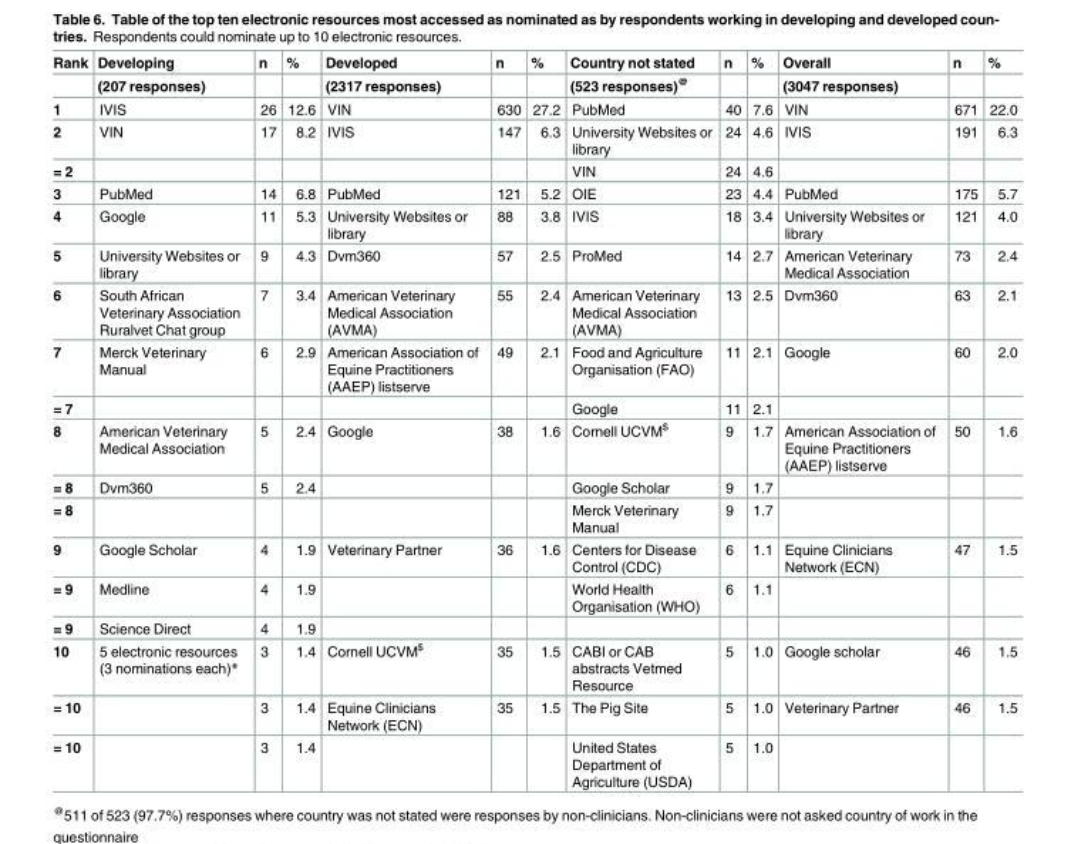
<table><thead><tr><td rowspan="2">Rank</td><td rowspan="2">Developing (207 responses)</td><td rowspan="2">n</td><td rowspan="2">%</td><td rowspan="2">Developed (2317 responses)</td><td rowspan="2">n</td><td rowspan="2">%</td><td rowspan="2">Country not stated (523 responses)<sup>@</sup></td><td rowspan="2">n</td><td rowspan="2">%</td><td rowspan="2">Overall (3047 responses)</td><td rowspan="2">n</td><td rowspan="2">%</td></tr><tr></tr></thead><tbody><tr><td>1</td><td>IVIS</td><td>26</td><td>12.6</td><td>VIN</td><td>630</td><td>27.2</td><td>PubMed</td><td>40</td><td>7.6</td><td>VIN</td><td>671</td><td>22.0</td></tr><tr><td>2</td><td>VIN</td><td>17</td><td>8.2</td><td>IVIS</td><td>147</td><td>6.3</td><td>University Websites or library</td><td>24</td><td>4.6</td><td>IVIS</td><td>191</td><td>6.3</td></tr><tr><td>= 2</td><td></td><td></td><td></td><td></td><td></td><td></td><td>VIN</td><td>24</td><td>4.6</td><td></td><td></td><td></td></tr><tr><td>3</td><td>PubMed</td><td>14</td><td>6.8</td><td>PubMed</td><td>121</td><td>5.2</td><td>OIE</td><td>23</td><td>4.4</td><td>PubMed</td><td>175</td><td>5.7</td></tr><tr><td>4</td><td>Google</td><td>11</td><td>5.3</td><td>University Websites or library</td><td>88</td><td>3.8</td><td>IVIS</td><td>18</td><td>3.4</td><td>University Websites or library</td><td>121</td><td>4.0</td></tr><tr><td>5</td><td>University Websites or library</td><td>9</td><td>4.3</td><td>Dvm360</td><td>57</td><td>2.5</td><td>ProMed</td><td>14</td><td>2.7</td><td>American Veterinary Medical Association</td><td>73</td><td>2.4</td></tr><tr><td>6</td><td>South African Veterinary Association Ruralvet Chat group</td><td>7</td><td>3.4</td><td>American Veterinary Medical Association (AVMA)</td><td>55</td><td>2.4</td><td>American Veterinary Medical Association (AVMA)</td><td>13</td><td>2.5</td><td>Dvm360</td><td>63</td><td>2.1</td></tr><tr><td>7</td><td>Merck Veterinary Manual</td><td>6</td><td>2.9</td><td>American Association of Equine Practitioners (AAEP) listserve</td><td>49</td><td>2.1</td><td>Food and Agriculture Organisation (FAO)</td><td>11</td><td>2.1</td><td>Google</td><td>60</td><td>2.0</td></tr><tr><td>= 7</td><td></td><td></td><td></td><td></td><td></td><td></td><td>Google</td><td>11</td><td>2.1</td><td></td><td></td><td></td></tr><tr><td>8</td><td>American Veterinary Medical Association</td><td>5</td><td>2.4</td><td>Google</td><td>38</td><td>1.6</td><td>Cornell UCVM<sup>$</sup></td><td>9</td><td>1.7</td><td>American Association of Equine Practitioners (AAEP) listserve</td><td>50</td><td>1.6</td></tr><tr><td>= 8</td><td>Dvm360</td><td>5</td><td>2.4</td><td></td><td></td><td></td><td>Google Scholar</td><td>9</td><td>1.7</td><td></td><td></td><td></td></tr><tr><td>= 8</td><td></td><td></td><td></td><td></td><td></td><td></td><td>Merck Veterinary Manual</td><td>9</td><td>1.7</td><td></td><td></td><td></td></tr><tr><td>9</td><td>Google Scholar</td><td>4</td><td>1.9</td><td>Veterinary Partner</td><td>36</td><td>1.6</td><td>Centers for Disease Control (CDC)</td><td>6</td><td>1.1</td><td>Equine Clinicians Network (ECN)</td><td>47</td><td>1.5</td></tr><tr><td>= 9</td><td>Medline</td><td>4</td><td>1.9</td><td></td><td></td><td></td><td>World Health Organisation (WHO)</td><td>6</td><td>1.1</td><td></td><td></td><td></td></tr><tr><td>= 9</td><td>Science Direct</td><td>4</td><td>1.9</td><td></td><td></td><td></td><td></td><td></td><td></td><td></td><td></td><td></td></tr><tr><td>10</td><td>5 electronic resources (3 nominations each)*</td><td>3</td><td>1.4</td><td>Cornell UCVM<sup>$</sup></td><td>35</td><td>1.5</td><td>CABI or CAB abstracts Vetmed Resource</td><td>5</td><td>1.0</td><td>Google scholar</td><td>46</td><td>1.5</td></tr><tr><td>= 10</td><td></td><td>3</td><td>1.4</td><td>Equine Clinicians Network (ECN)</td><td>35</td><td>1.5</td><td>The Pig Site</td><td>5</td><td>1.0</td><td>Veterinary Partner</td><td>46</td><td>1.5</td></tr><tr><td>= 10</td><td></td><td>3</td><td>1.4</td><td></td><td></td><td></td><td>United States Department of Agriculture (USDA)</td><td>5</td><td>1.0</td><td></td><td></td><td></td></tr></tbody></table>